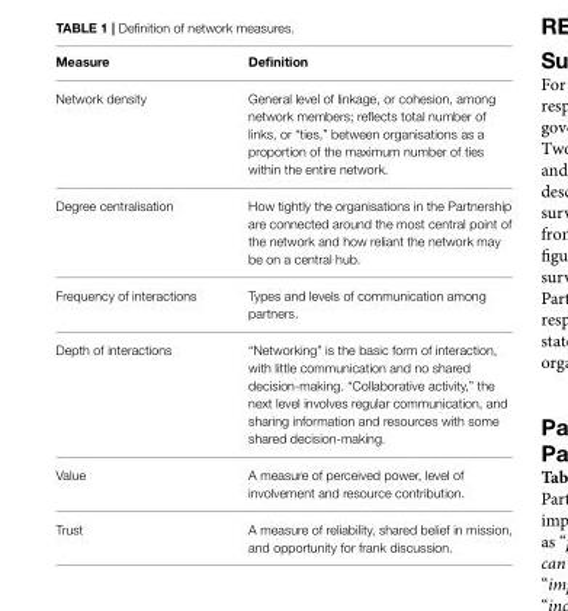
<table><thead><tr><td>Measure</td><td>Definition</td></tr></thead><tbody><tr><td>Network density</td><td>General level of linkage, or cohesion, among network members; reflects total number of links, or “ties,” between organisations as a proportion of the maximum number of ties within the entire network.</td></tr><tr><td>Degree centralisation</td><td>How tightly the organisations in the Partnership are connected around the most central point of the network and how reliant the network may be on a central hub.</td></tr><tr><td>Frequency of interactions</td><td>Types and levels of communication among partners.</td></tr><tr><td>Depth of interactions</td><td>“Networking” is the basic form of interaction, with little communication and no shared decision-making. “Collaborative activity,” the next level involves regular communication, and sharing information and resources with some shared decision-making.</td></tr><tr><td>Value</td><td>A measure of perceived power, level of involvement and resource contribution.</td></tr><tr><td>Trust</td><td>A measure of reliability, shared belief in mission, and opportunity for frank discussion.</td></tr></tbody></table>